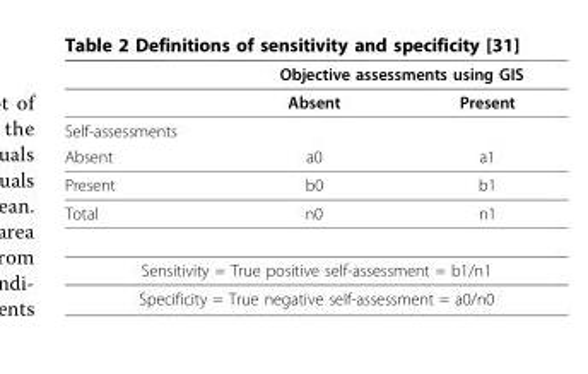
<table><thead><tr><td rowspan="2"></td><td colspan="2">Objective assessments using GIS</td></tr><tr><td>Absent</td><td>Present</td></tr></thead><tbody><tr><td colspan="3">Self-assessments</td></tr><tr><td>Absent</td><td>a0</td><td>a1</td></tr><tr><td>Present</td><td>b0</td><td>b1</td></tr><tr><td>Total</td><td>n0</td><td>n1</td></tr><tr><td colspan="3">Sensitivity = True positive self-assessment = b1/n1</td></tr><tr><td colspan="3">Specificity = True negative self-assessment = a0/n0</td></tr></tbody></table>